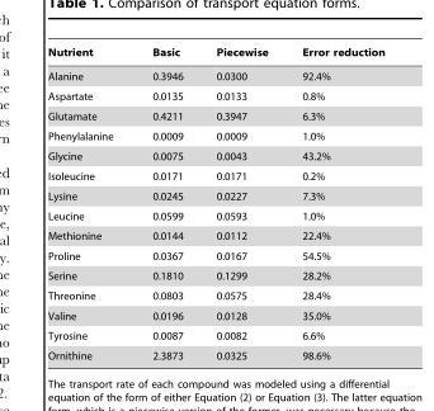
<table><thead><tr><td>Nutrient</td><td>Basic</td><td>Piecewise</td><td>Error reduction</td></tr></thead><tbody><tr><td>Alanine</td><td>0.3946</td><td>0.0300</td><td>92.4%</td></tr><tr><td>Aspartate</td><td>0.0135</td><td>0.0133</td><td>0.8%</td></tr><tr><td>Glutamate</td><td>0.4211</td><td>0.3947</td><td>6.3%</td></tr><tr><td>Phenylalanine</td><td>0.0009</td><td>0.0009</td><td>1.0%</td></tr><tr><td>Glycine</td><td>0.0075</td><td>0.0043</td><td>43.2%</td></tr><tr><td>Isoleucine</td><td>0.0171</td><td>0.0171</td><td>0.2%</td></tr><tr><td>Lysine</td><td>0.0245</td><td>0.0227</td><td>7.3%</td></tr><tr><td>Leucine</td><td>0.0599</td><td>0.0593</td><td>1.0%</td></tr><tr><td>Methionine</td><td>0.0144</td><td>0.0112</td><td>22.4%</td></tr><tr><td>Proline</td><td>0.0367</td><td>0.0167</td><td>54.5%</td></tr><tr><td>Serine</td><td>0.1810</td><td>0.1299</td><td>28.2%</td></tr><tr><td>Threonine</td><td>0.0803</td><td>0.0575</td><td>28.4%</td></tr><tr><td>Valine</td><td>0.0196</td><td>0.0128</td><td>35.0%</td></tr><tr><td>Tyrosine</td><td>0.0087</td><td>0.0082</td><td>6.6%</td></tr><tr><td>Ornithine</td><td>2.3873</td><td>0.0325</td><td>98.6%</td></tr></tbody></table>